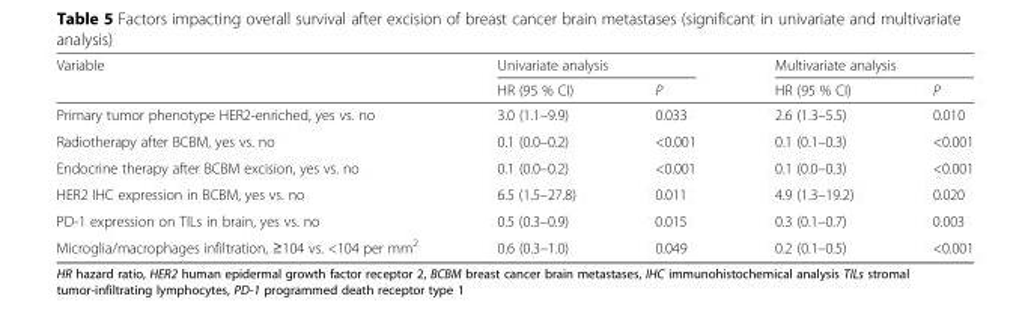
<table><thead><tr><td rowspan="2">Variable</td><td colspan="2">Univariate analysis</td><td colspan="2">Multivariate analysis</td></tr><tr><td>HR (95 % CI)</td><td>P</td><td>HR (95 % CI)</td><td>P</td></tr></thead><tbody><tr><td>Primary tumor phenotype HER2-enriched, yes vs. no</td><td>3.0 (1.1–9.9)</td><td>0.033</td><td>2.6 (1.3–5.5)</td><td>0.010</td></tr><tr><td>Radiotherapy after BCBM, yes vs. no</td><td>0.1 (0.0–0.2)</td><td>&lt;0.001</td><td>0.1 (0.1–0.3)</td><td>&lt;0.001</td></tr><tr><td>Endocrine therapy after BCBM excision, yes vs. no</td><td>0.1 (0.0–0.2)</td><td>&lt;0.001</td><td>0.1 (0.0–0.3)</td><td>&lt;0.001</td></tr><tr><td>HER2 IHC expression in BCBM, yes vs. no</td><td>6.5 (1.5–27.8)</td><td>0.011</td><td>4.9 (1.3–19.2)</td><td>0.020</td></tr><tr><td>PD-1 expression on TILs in brain, yes vs. no</td><td>0.5 (0.3–0.9)</td><td>0.015</td><td>0.3 (0.1–0.7)</td><td>0.003</td></tr><tr><td>Microglia/macrophages infiltration, ≥104 vs. &lt;104 per mm<sup>2</sup></td><td>0.6 (0.3–1.0)</td><td>0.049</td><td>0.2 (0.1–0.5)</td><td>&lt;0.001</td></tr></tbody></table>